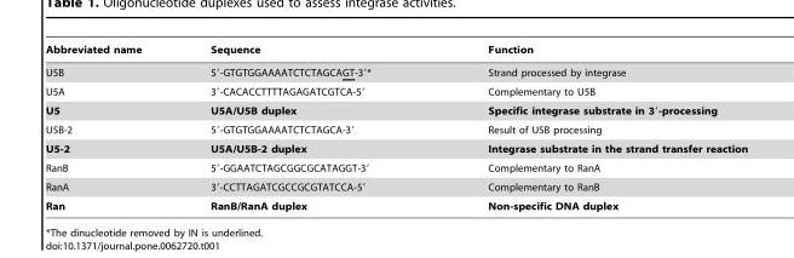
<table><thead><tr><td>Abbreviated name</td><td>Sequence</td><td>Function</td></tr></thead><tbody><tr><td>U5B</td><td>5′-GTGTGGAAAATCTCTAGCAGT-3′*</td><td>Strand processed by integrase</td></tr><tr><td>U5A</td><td>3′-CACACCTTTTAGAGATCGTCA-5′</td><td>Complementary to U5B</td></tr><tr><td>U5</td><td>U5A/U5B duplex</td><td>Specific integrase substrate in 3′-processing</td></tr><tr><td>U5B-2</td><td>5′-GTGTGGAAAATCTCTAGCA-3′</td><td>Result of U5B processing</td></tr><tr><td>U5-2</td><td>U5A/U5B-2 duplex</td><td>Integrase substrate in the strand transfer reaction</td></tr><tr><td>RanB</td><td>5′-GGAATCTAGCGGCGCATAGGT-3′</td><td>Complementary to RanA</td></tr><tr><td>RanA</td><td>3′-CCTTAGATCGCCGCGTATCCA-5′</td><td>Complementary to RanB</td></tr><tr><td>Ran</td><td>RanB/RanA duplex</td><td>Non-specific DNA duplex</td></tr></tbody></table>